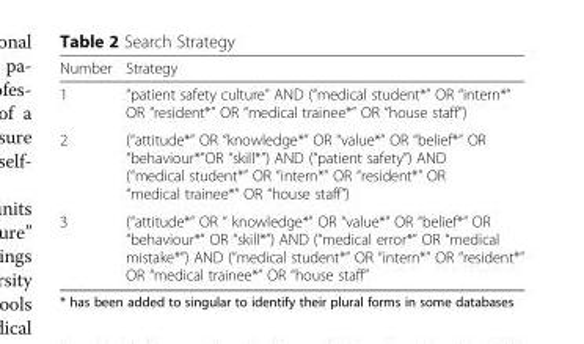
<table><thead><tr><td>Number</td><td>Strategy</td></tr></thead><tbody><tr><td>1</td><td>“patient safety culture” AND (“medical student*” OR “intern*” OR “resident*” OR “medical trainee*” OR “house staff”)</td></tr><tr><td>2</td><td>(“attitude*” OR “knowledge*” OR “value*” OR “belief*” OR “behaviour*”OR “skill*”) AND (“patient safety”) AND (“medical student*” OR “intern*” OR “resident*” OR “medical trainee*” OR “house staff”)</td></tr><tr><td>3</td><td>(“attitude*” OR “ knowledge*” OR “value*” OR “belief*” OR “behaviour*” OR “skill*”) AND (“medical error*” OR “medical mistake*”) AND (“medical student*” OR “intern*” OR “resident*” OR “medical trainee*” OR “house staff”</td></tr></tbody></table>